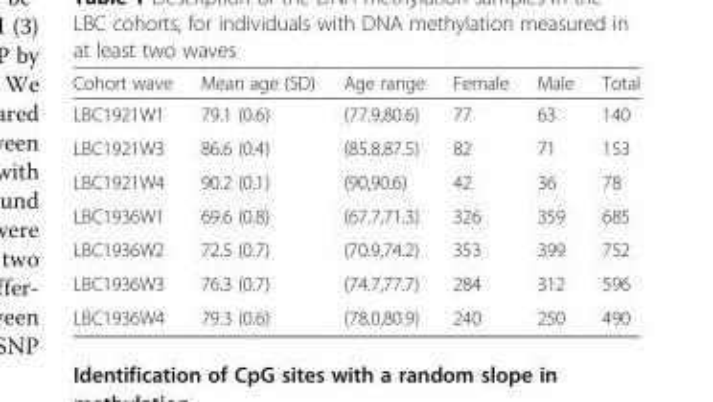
<table><thead><tr><td>Cohort wave</td><td>Mean age (SD)</td><td>Age range</td><td>Female</td><td>Male</td><td>Total</td></tr></thead><tbody><tr><td>LBC1921W1</td><td>79.1 (0.6)</td><td>(77.9,80.6)</td><td>77</td><td>63</td><td>140</td></tr><tr><td>LBC1921W3</td><td>86.6 (0.4)</td><td>(85.8,87.5)</td><td>82</td><td>71</td><td>153</td></tr><tr><td>LBC1921W4</td><td>90.2 (0.1)</td><td>(90,90.6)</td><td>42</td><td>36</td><td>78</td></tr><tr><td>LBC1936W1</td><td>69.6 (0.8)</td><td>(67.7,71.3)</td><td>326</td><td>359</td><td>685</td></tr><tr><td>LBC1936W2</td><td>72.5 (0.7)</td><td>(70.9,74.2)</td><td>353</td><td>399</td><td>752</td></tr><tr><td>LBC1936W3</td><td>76.3 (0.7)</td><td>(74.7,77.7)</td><td>284</td><td>312</td><td>596</td></tr><tr><td>LBC1936W4</td><td>79.3 (0.6)</td><td>(78.0,80.9)</td><td>240</td><td>250</td><td>490</td></tr></tbody></table>